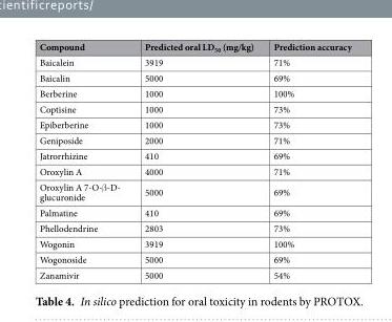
<table><thead><tr><td>Compound</td><td>Predicted oral LD<sub>50</sub> (mg/kg)</td><td>Prediction accuracy</td></tr></thead><tbody><tr><td>Baicalein</td><td>3919</td><td>71%</td></tr><tr><td>Baicalin</td><td>5000</td><td>69%</td></tr><tr><td>Berberine</td><td>1000</td><td>100%</td></tr><tr><td>Coptisine</td><td>1000</td><td>73%</td></tr><tr><td>Epiberberine</td><td>1000</td><td>73%</td></tr><tr><td>Geniposide</td><td>2000</td><td>71%</td></tr><tr><td>Jatrorrhizine</td><td>410</td><td>69%</td></tr><tr><td>Oroxylin A</td><td>4000</td><td>71%</td></tr><tr><td>Oroxylin A 7-O-β-D- glucuronide</td><td>5000</td><td>69%</td></tr><tr><td>Palmatine</td><td>410</td><td>69%</td></tr><tr><td>Phellodendrine</td><td>2803</td><td>73%</td></tr><tr><td>Wogonin</td><td>3919</td><td>100%</td></tr><tr><td>Wogonoside</td><td>5000</td><td>69%</td></tr><tr><td>Zanamivir</td><td>5000</td><td>54%</td></tr></tbody></table>